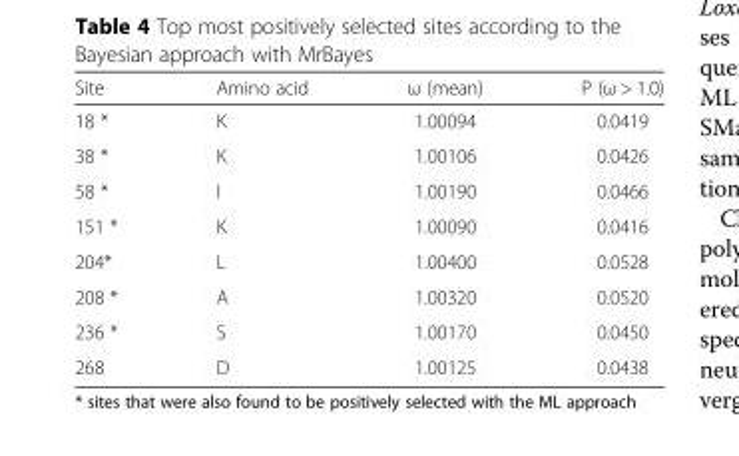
<table><thead><tr><td>Site</td><td>Amino acid</td><td>ω (mean)</td><td>P (ω &gt; 1.0)</td></tr></thead><tbody><tr><td>18 *</td><td>K</td><td>1.00094</td><td>0.0419</td></tr><tr><td>38 *</td><td>K</td><td>1.00106</td><td>0.0426</td></tr><tr><td>58 *</td><td>I</td><td>1.00190</td><td>0.0466</td></tr><tr><td>151 *</td><td>K</td><td>1.00090</td><td>0.0416</td></tr><tr><td>204*</td><td>L</td><td>1.00400</td><td>0.0528</td></tr><tr><td>208 *</td><td>A</td><td>1.00320</td><td>0.0520</td></tr><tr><td>236 *</td><td>S</td><td>1.00170</td><td>0.0450</td></tr><tr><td>268</td><td>D</td><td>1.00125</td><td>0.0438</td></tr></tbody></table>